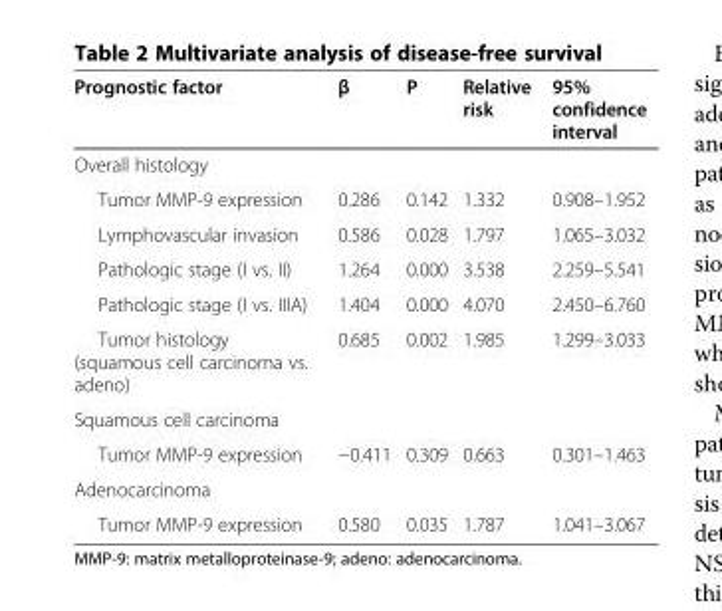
<table><thead><tr><td>Prognostic factor</td><td>β</td><td>P</td><td>Relative risk</td><td>95% confidence interval</td></tr></thead><tbody><tr><td colspan="5">Overall histology</td></tr><tr><td>Tumor MMP-9 expression</td><td>0.286</td><td>0.142</td><td>1.332</td><td>0.908–1.952</td></tr><tr><td>Lymphovascular invasion</td><td>0.586</td><td>0.028</td><td>1.797</td><td>1.065–3.032</td></tr><tr><td>Pathologic stage (I vs. II)</td><td>1.264</td><td>0.000</td><td>3.538</td><td>2.259–5.541</td></tr><tr><td>Pathologic stage (I vs. IIIA)</td><td>1.404</td><td>0.000</td><td>4.070</td><td>2.450–6.760</td></tr><tr><td>Tumor histology (squamous cell carcinoma vs. adeno)</td><td>0.685</td><td>0.002</td><td>1.985</td><td>1.299–3.033</td></tr><tr><td colspan="5">Squamous cell carcinoma</td></tr><tr><td>Tumor MMP-9 expression</td><td>−0.411</td><td>0.309</td><td>0.663</td><td>0.301–1.463</td></tr><tr><td colspan="5">Adenocarcinoma</td></tr><tr><td>Tumor MMP-9 expression</td><td>0.580</td><td>0.035</td><td>1.787</td><td>1.041–3.067</td></tr></tbody></table>